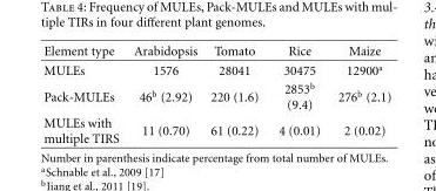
<table><thead><tr><td>Element type</td><td>Arabidopsis</td><td>Tomato</td><td>Rice</td><td>Maize</td></tr></thead><tbody><tr><td>MULEs</td><td>1576</td><td>28041</td><td>30475</td><td>12900<sup>a</sup></td></tr><tr><td>Pack-MULEs</td><td>46<sup>b</sup> (2.92)</td><td>220 (1.6)</td><td>2853<sup>b</sup> (9.4)</td><td>276<sup>b</sup> (2.1)</td></tr><tr><td>MULEs with multiple TIRS</td><td>11 (0.70)</td><td>61 (0.22)</td><td>4 (0.01)</td><td>2 (0.02)</td></tr></tbody></table>